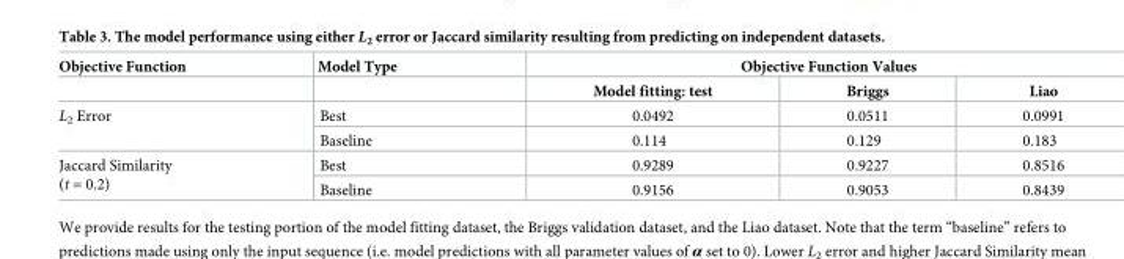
<table><thead><tr><td rowspan="2">Objective Function</td><td rowspan="2">Model Type</td><td colspan="3">Objective Function Values</td></tr><tr><td>Model fitting: test</td><td>Briggs</td><td>Liao</td></tr></thead><tbody><tr><td rowspan="2">L<sub>2</sub> Error</td><td>Best</td><td>0.0492</td><td>0.0511</td><td>0.0991</td></tr><tr><td>Baseline</td><td>0.114</td><td>0.129</td><td>0.183</td></tr><tr><td rowspan="2">Jaccard Similarity (t = 0.2)</td><td>Best</td><td>0.9289</td><td>0.9227</td><td>0.8516</td></tr><tr><td>Baseline</td><td>0.9156</td><td>0.9053</td><td>0.8439</td></tr></tbody></table>